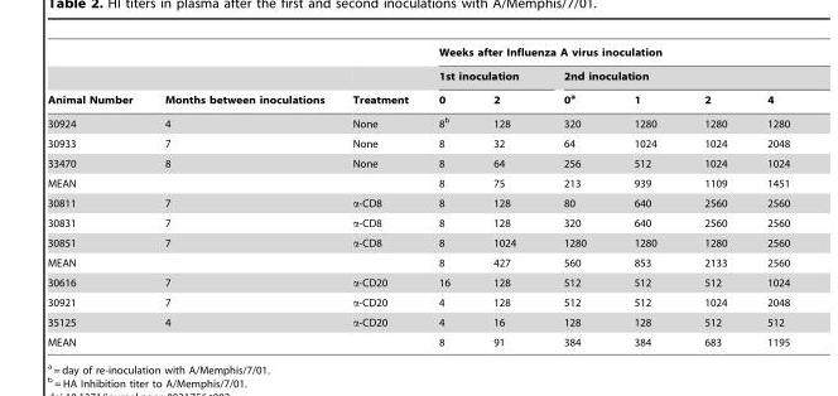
<table><thead><tr><td rowspan="3">Animal Number</td><td rowspan="3">Months between inoculations</td><td rowspan="3">Treatment</td><td colspan="6">Weeks after Influenza A virus inoculation</td></tr><tr><td colspan="2">1st inoculation</td><td colspan="4">2nd inoculation</td></tr><tr><td>0</td><td>2</td><td>0<sup>a</sup></td><td>1</td><td>2</td><td>4</td></tr></thead><tbody><tr><td>30924</td><td>4</td><td>None</td><td>8<sup>b</sup></td><td>128</td><td>320</td><td>1280</td><td>1280</td><td>1280</td></tr><tr><td>30933</td><td>7</td><td>None</td><td>8</td><td>32</td><td>64</td><td>1024</td><td>1024</td><td>2048</td></tr><tr><td>33470</td><td>8</td><td>None</td><td>8</td><td>64</td><td>256</td><td>512</td><td>1024</td><td>1024</td></tr><tr><td>MEAN</td><td></td><td></td><td>8</td><td>75</td><td>213</td><td>939</td><td>1109</td><td>1451</td></tr><tr><td>30811</td><td>7</td><td>α-CD8</td><td>8</td><td>128</td><td>80</td><td>640</td><td>2560</td><td>2560</td></tr><tr><td>30831</td><td>7</td><td>α-CD8</td><td>8</td><td>128</td><td>320</td><td>640</td><td>2560</td><td>2560</td></tr><tr><td>30851</td><td>7</td><td>α-CD8</td><td>8</td><td>1024</td><td>1280</td><td>1280</td><td>1280</td><td>2560</td></tr><tr><td>MEAN</td><td></td><td></td><td>8</td><td>427</td><td>560</td><td>853</td><td>2133</td><td>2560</td></tr><tr><td>30616</td><td>7</td><td>α-CD20</td><td>16</td><td>128</td><td>512</td><td>512</td><td>512</td><td>1024</td></tr><tr><td>30921</td><td>7</td><td>α-CD20</td><td>4</td><td>128</td><td>512</td><td>512</td><td>1024</td><td>2048</td></tr><tr><td>35125</td><td>4</td><td>α-CD20</td><td>4</td><td>16</td><td>128</td><td>128</td><td>512</td><td>512</td></tr><tr><td>MEAN</td><td></td><td></td><td>8</td><td>91</td><td>384</td><td>384</td><td>683</td><td>1195</td></tr></tbody></table>